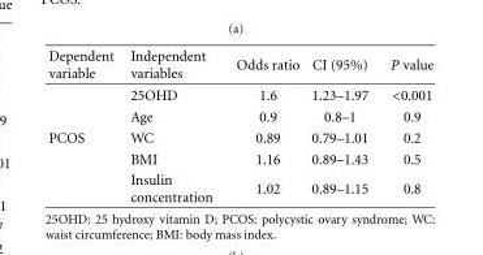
<table><thead><tr><td>Dependent variable</td><td>Independent variables</td><td>Odds ratio</td><td>CI (95%)</td><td>P value</td></tr></thead><tbody><tr><td></td><td>25OHD</td><td>1.6</td><td>1.23–1.97</td><td>&lt;0.001</td></tr><tr><td></td><td>Age</td><td>0.9</td><td>0.8–1</td><td>0.9</td></tr><tr><td rowspan="3">PCOS</td><td>WC</td><td>0.89</td><td>0.79–1.01</td><td>0.2</td></tr><tr><td>BMI</td><td>1.16</td><td>0.89–1.43</td><td>0.5</td></tr><tr><td>Insulin concentration</td><td>1.02</td><td>0.89–1.15</td><td>0.8</td></tr></tbody></table>